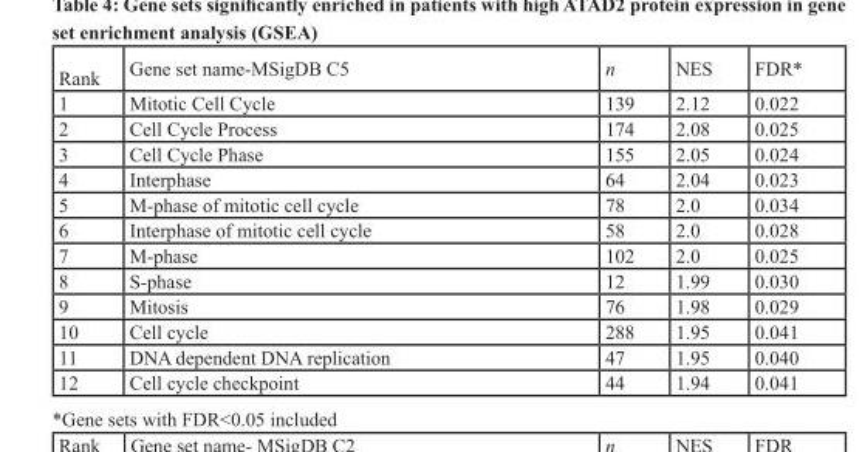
<table><thead><tr><td>Rank</td><td>Gene set name-MSigDB C5</td><td>n</td><td>NES</td><td>FDR*</td></tr></thead><tbody><tr><td>1</td><td>Mitotic Cell Cycle</td><td>139</td><td>2.12</td><td>0.022</td></tr><tr><td>2</td><td>Cell Cycle Process</td><td>174</td><td>2.08</td><td>0.025</td></tr><tr><td>3</td><td>Cell Cycle Phase</td><td>155</td><td>2.05</td><td>0.024</td></tr><tr><td>4</td><td>Interphase</td><td>64</td><td>2.04</td><td>0.023</td></tr><tr><td>5</td><td>M-phase of mitotic cell cycle</td><td>78</td><td>2.0</td><td>0.034</td></tr><tr><td>6</td><td>Interphase of mitotic cell cycle</td><td>58</td><td>2.0</td><td>0.028</td></tr><tr><td>7</td><td>M-phase</td><td>102</td><td>2.0</td><td>0.025</td></tr><tr><td>8</td><td>S-phase</td><td>12</td><td>1.99</td><td>0.030</td></tr><tr><td>9</td><td>Mitosis</td><td>76</td><td>1.98</td><td>0.029</td></tr><tr><td>10</td><td>Cell cycle</td><td>288</td><td>1.95</td><td>0.041</td></tr><tr><td>11</td><td>DNA dependent DNA replication</td><td>47</td><td>1.95</td><td>0.040</td></tr><tr><td>12</td><td>Cell cycle checkpoint</td><td>44</td><td>1.94</td><td>0.041</td></tr></tbody></table>